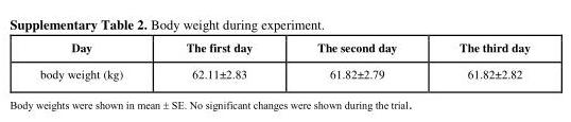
<table><thead><tr><td>Day</td><td>The first day</td><td>The second day</td><td>The third day</td></tr></thead><tbody><tr><td>body weight (kg)</td><td>62.11±2.83</td><td>61.82±2.79</td><td>61.82±2.82</td></tr></tbody></table>